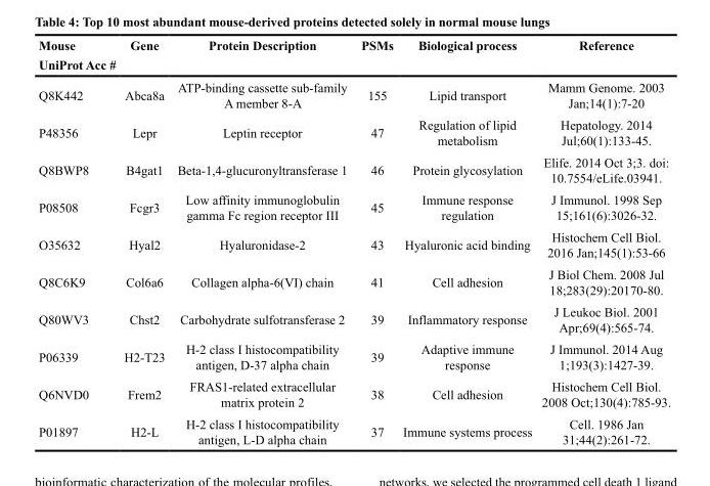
<table><thead><tr><td>Mouse UniProt Acc #</td><td>Gene</td><td>Protein Description</td><td>PSMs</td><td>Biological process</td><td>Reference</td></tr></thead><tbody><tr><td>Q8K442</td><td>Abca8a</td><td>ATP-binding cassette sub-family A member 8-A</td><td>155</td><td>Lipid transport</td><td>Mamm Genome. 2003 Jan;14(1):7-20</td></tr><tr><td>P48356</td><td>Lepr</td><td>Leptin receptor</td><td>47</td><td>Regulation of lipid metabolism</td><td>Hepatology. 2014 Jul;60(1):133-45.</td></tr><tr><td>Q8BWP8</td><td>B4gat1</td><td>Beta-1,4-glucuronyltransferase 1</td><td>46</td><td>Protein glycosylation</td><td>Elife. 2014 Oct 3;3. doi: 10.7554/eLife.03941.</td></tr><tr><td>P08508</td><td>Fcgr3</td><td>Low affinity immunoglobulin gamma Fc region receptor III</td><td>45</td><td>Immune response regulation</td><td>J Immunol. 1998 Sep 15;161(6):3026-32.</td></tr><tr><td>O35632</td><td>Hyal2</td><td>Hyaluronidase-2</td><td>43</td><td>Hyaluronic acid binding</td><td>Histochem Cell Biol. 2016 Jan;145(1):53-66</td></tr><tr><td>Q8C6K9</td><td>Col6a6</td><td>Collagen alpha-6(VI) chain</td><td>41</td><td>Cell adhesion</td><td>J Biol Chem. 2008 Jul 18;283(29):20170-80.</td></tr><tr><td>Q80WV3</td><td>Chst2</td><td>Carbohydrate sulfotransferase 2</td><td>39</td><td>Inflammatory response</td><td>J Leukoc Biol. 2001 Apr;69(4):565-74.</td></tr><tr><td>P06339</td><td>H2-T23</td><td>H-2 class I histocompatibility antigen, D-37 alpha chain</td><td>39</td><td>Adaptive immune response</td><td>J Immunol. 2014 Aug 1;193(3):1427-39.</td></tr><tr><td>Q6NVD0</td><td>Frem2</td><td>FRAS1-related extracellular matrix protein 2</td><td>38</td><td>Cell adhesion</td><td>Histochem Cell Biol. 2008 Oct;130(4):785-93.</td></tr><tr><td>P01897</td><td>H2-L</td><td>H-2 class I histocompatibility antigen, L-D alpha chain</td><td>37</td><td>Immune systems process</td><td>Cell. 1986 Jan 31;44(2):261-72.</td></tr></tbody></table>